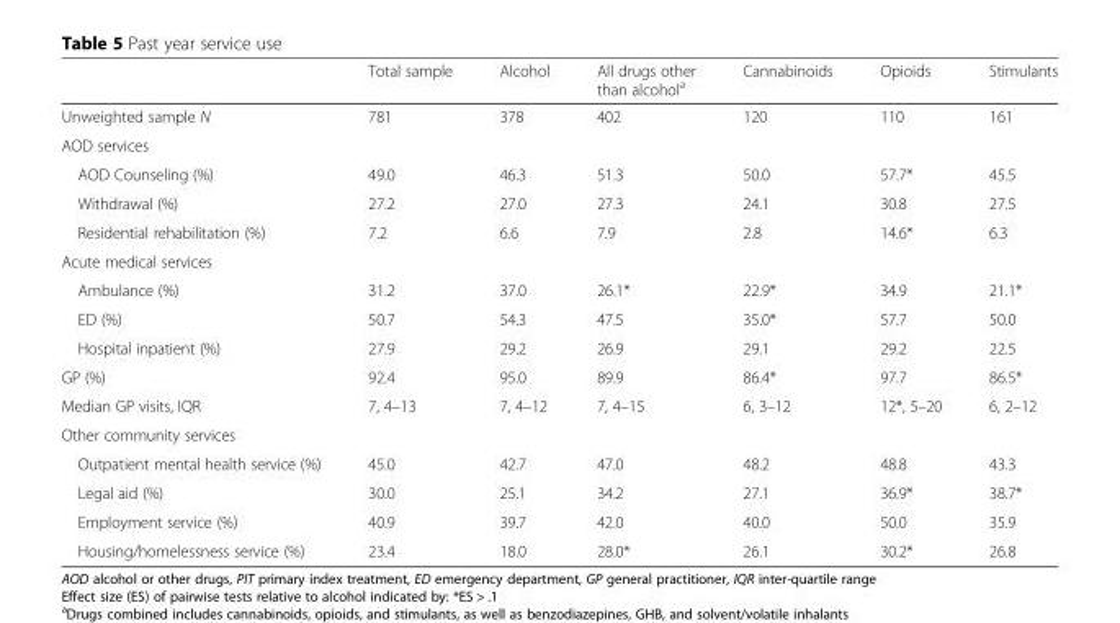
<table><thead><tr><td></td><td>Total sample</td><td>Alcohol</td><td>All drugs other than alcohol<sup>a</sup></td><td>Cannabinoids</td><td>Opioids</td><td>Stimulants</td></tr></thead><tbody><tr><td>Unweighted sample N</td><td>781</td><td>378</td><td>402</td><td>120</td><td>110</td><td>161</td></tr><tr><td colspan="7">AOD services</td></tr><tr><td>AOD Counseling (%)</td><td>49.0</td><td>46.3</td><td>51.3</td><td>50.0</td><td>57.7*</td><td>45.5</td></tr><tr><td>Withdrawal (%)</td><td>27.2</td><td>27.0</td><td>27.3</td><td>24.1</td><td>30.8</td><td>27.5</td></tr><tr><td>Residential rehabilitation (%)</td><td>7.2</td><td>6.6</td><td>7.9</td><td>2.8</td><td>14.6*</td><td>6.3</td></tr><tr><td colspan="7">Acute medical services</td></tr><tr><td>Ambulance (%)</td><td>31.2</td><td>37.0</td><td>26.1*</td><td>22.9*</td><td>34.9</td><td>21.1*</td></tr><tr><td>ED (%)</td><td>50.7</td><td>54.3</td><td>47.5</td><td>35.0*</td><td>57.7</td><td>50.0</td></tr><tr><td>Hospital inpatient (%)</td><td>27.9</td><td>29.2</td><td>26.9</td><td>29.1</td><td>29.2</td><td>22.5</td></tr><tr><td>GP (%)</td><td>92.4</td><td>95.0</td><td>89.9</td><td>86.4*</td><td>97.7</td><td>86.5*</td></tr><tr><td>Median GP visits, IQR</td><td>7, 4–13</td><td>7, 4–12</td><td>7, 4–15</td><td>6, 3–12</td><td>12*, 5–20</td><td>6, 2–12</td></tr><tr><td colspan="7">Other community services</td></tr><tr><td>Outpatient mental health service (%)</td><td>45.0</td><td>42.7</td><td>47.0</td><td>48.2</td><td>48.8</td><td>43.3</td></tr><tr><td>Legal aid (%)</td><td>30.0</td><td>25.1</td><td>34.2</td><td>27.1</td><td>36.9*</td><td>38.7*</td></tr><tr><td>Employment service (%)</td><td>40.9</td><td>39.7</td><td>42.0</td><td>40.0</td><td>50.0</td><td>35.9</td></tr><tr><td>Housing/homelessness service (%)</td><td>23.4</td><td>18.0</td><td>28.0*</td><td>26.1</td><td>30.2*</td><td>26.8</td></tr></tbody></table>